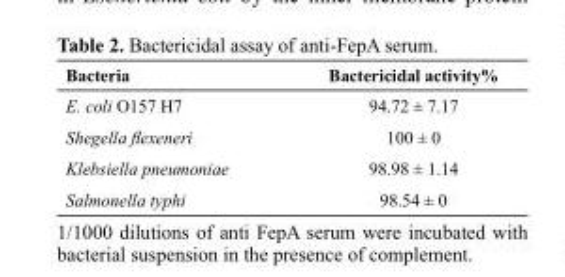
<table><thead><tr><td>Bacteria</td><td>Bactericidal activity%</td></tr></thead><tbody><tr><td>E. coli O157 H7</td><td>94.72 ± 7.17</td></tr><tr><td>Shegella flexeneri</td><td>100 ± 0</td></tr><tr><td>Klebsiella pneumoniae</td><td>98.98 ± 1.14</td></tr><tr><td>Salmonella typhi</td><td>98.54 ± 0</td></tr></tbody></table>